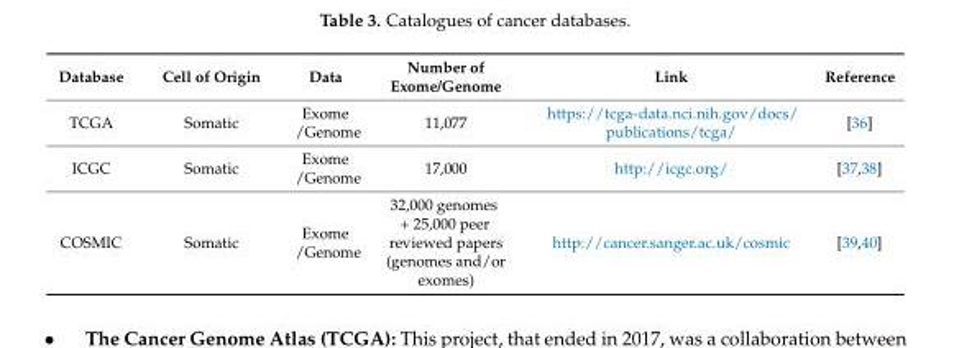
<table><thead><tr><td>Database</td><td>Cell of Origin</td><td>Data</td><td>Number of Exome/Genome</td><td>Link</td><td>Reference</td></tr></thead><tbody><tr><td>TCGA</td><td>Somatic</td><td>Exome /Genome</td><td>11,077</td><td>https://tcga-data.nci.nih.gov/docs/ publications/tcga/</td><td>[36]</td></tr><tr><td>ICGC</td><td>Somatic</td><td>Exome /Genome</td><td>17,000</td><td>http://icgc.org/</td><td>[37,38]</td></tr><tr><td>COSMIC</td><td>Somatic</td><td>Exome /Genome</td><td>32,000 genomes + 25,000 peer reviewed papers (genomes and/or exomes)</td><td>http://cancer.sanger.ac.uk/cosmic</td><td>[39,40]</td></tr></tbody></table>